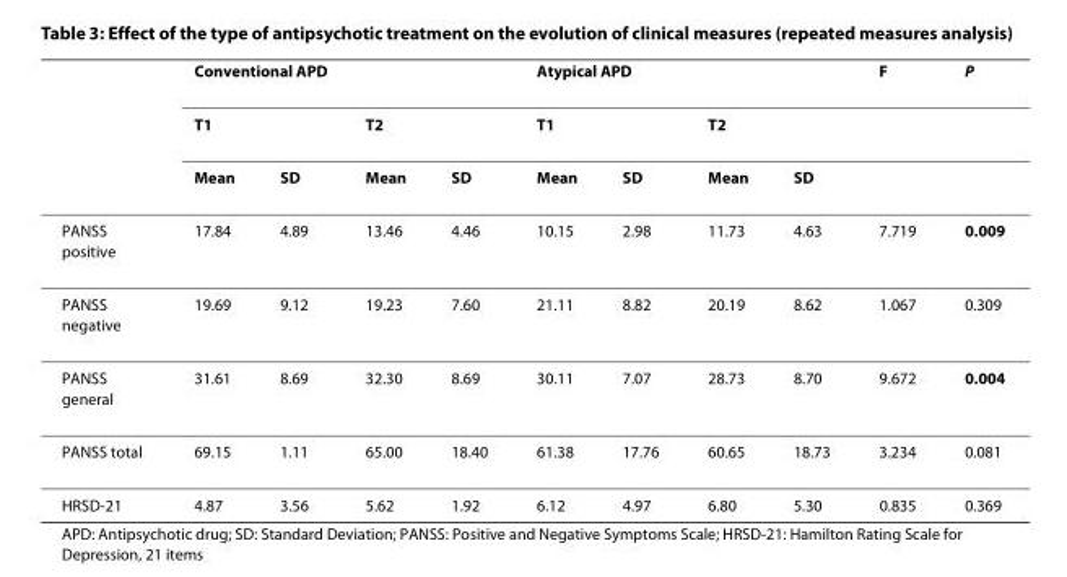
<table><thead><tr><td rowspan="3"></td><td colspan="4">Conventional APD</td><td colspan="4">Atypical APD</td><td rowspan="3">F</td><td rowspan="3">P</td></tr><tr><td colspan="2">T1</td><td colspan="2">T2</td><td colspan="2">T1</td><td colspan="2">T2</td></tr><tr><td>Mean</td><td>SD</td><td>Mean</td><td>SD</td><td>Mean</td><td>SD</td><td>Mean</td><td>SD</td></tr></thead><tbody><tr><td>PANSS positive</td><td>17.84</td><td>4.89</td><td>13.46</td><td>4.46</td><td>10.15</td><td>2.98</td><td>11.73</td><td>4.63</td><td>7.719</td><td>0.009</td></tr><tr><td>PANSS negative</td><td>19.69</td><td>9.12</td><td>19.23</td><td>7.60</td><td>21.11</td><td>8.82</td><td>20.19</td><td>8.62</td><td>1.067</td><td>0.309</td></tr><tr><td>PANSS general</td><td>31.61</td><td>8.69</td><td>32.30</td><td>8.69</td><td>30.11</td><td>7.07</td><td>28.73</td><td>8.70</td><td>9.672</td><td>0.004</td></tr><tr><td>PANSS total</td><td>69.15</td><td>1.11</td><td>65.00</td><td>18.40</td><td>61.38</td><td>17.76</td><td>60.65</td><td>18.73</td><td>3.234</td><td>0.081</td></tr><tr><td>HRSD-21</td><td>4.87</td><td>3.56</td><td>5.62</td><td>1.92</td><td>6.12</td><td>4.97</td><td>6.80</td><td>5.30</td><td>0.835</td><td>0.369</td></tr></tbody></table>